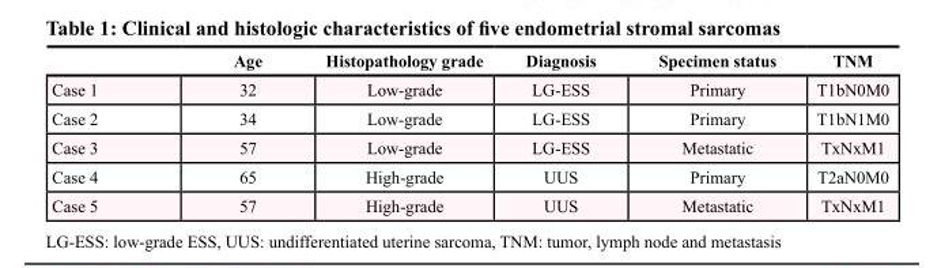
<table><thead><tr><td></td><td>Age</td><td>Histopathology grade</td><td>Diagnosis</td><td>Specimen status</td><td>TNM</td></tr></thead><tbody><tr><td>Case 1</td><td>32</td><td>Low-grade</td><td>LG-ESS</td><td>Primary</td><td>T1bN0M0</td></tr><tr><td>Case 2</td><td>34</td><td>Low-grade</td><td>LG-ESS</td><td>Primary</td><td>T1bN1M0</td></tr><tr><td>Case 3</td><td>57</td><td>Low-grade</td><td>LG-ESS</td><td>Metastatic</td><td>TxNxM1</td></tr><tr><td>Case 4</td><td>65</td><td>High-grade</td><td>UUS</td><td>Primary</td><td>T2aN0M0</td></tr><tr><td>Case 5</td><td>57</td><td>High-grade</td><td>UUS</td><td>Metastatic</td><td>TxNxM1</td></tr></tbody></table>